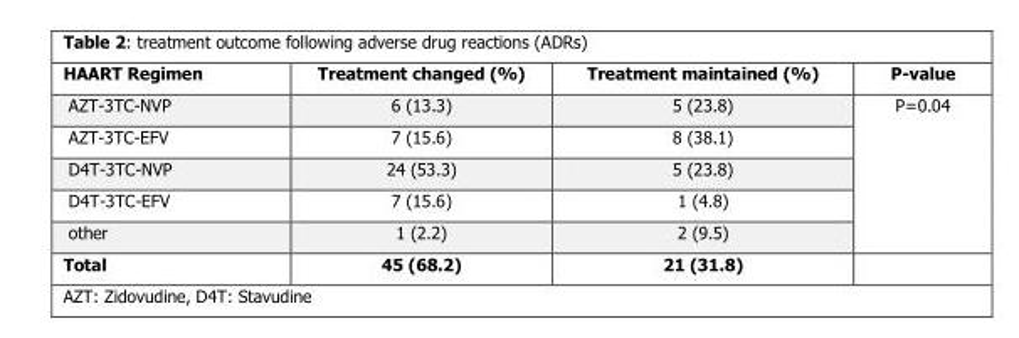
<table><thead><tr><td>HAART Regimen</td><td>Treatment changed (%)</td><td>Treatment maintained (%)</td><td>P-value</td></tr></thead><tbody><tr><td>AZT-3TC-NVP</td><td>6 (13.3)</td><td>5 (23.8)</td><td rowspan="5">P=0.04</td></tr><tr><td>AZT-3TC-EFV</td><td>7 (15.6)</td><td>8 (38.1)</td></tr><tr><td>D4T-3TC-NVP</td><td>24 (53.3)</td><td>5 (23.8)</td></tr><tr><td>D4T-3TC-EFV</td><td>7 (15.6)</td><td>1 (4.8)</td></tr><tr><td>other</td><td>1 (2.2)</td><td>2 (9.5)</td></tr><tr><td>Total</td><td>45 (68.2)</td><td>21 (31.8)</td><td></td></tr></tbody></table>